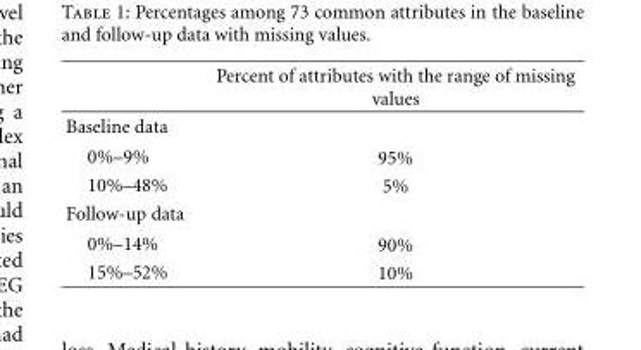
<table><thead><tr><td></td><td>Percent of attributes with the range of missing values</td></tr></thead><tbody><tr><td colspan="2">Baseline data</td></tr><tr><td>0%–9%</td><td>95%</td></tr><tr><td>10%–48%</td><td>5%</td></tr><tr><td colspan="2">Follow-up data</td></tr><tr><td>0%–14%</td><td>90%</td></tr><tr><td>15%–52%</td><td>10%</td></tr></tbody></table>